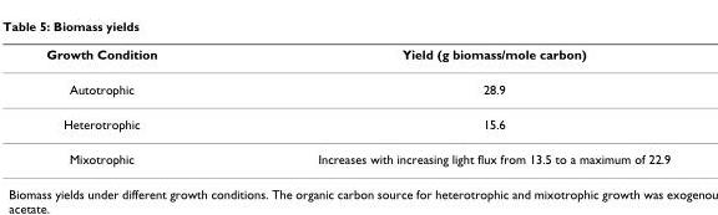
<table><thead><tr><td>Growth Condition</td><td>Yield (g biomass/mole carbon)</td></tr></thead><tbody><tr><td>Autotrophic</td><td>28.9</td></tr><tr><td>Heterotrophic</td><td>15.6</td></tr><tr><td>Mixotrophic</td><td>Increases with increasing light flux from 13.5 to a maximum of 22.9</td></tr></tbody></table>